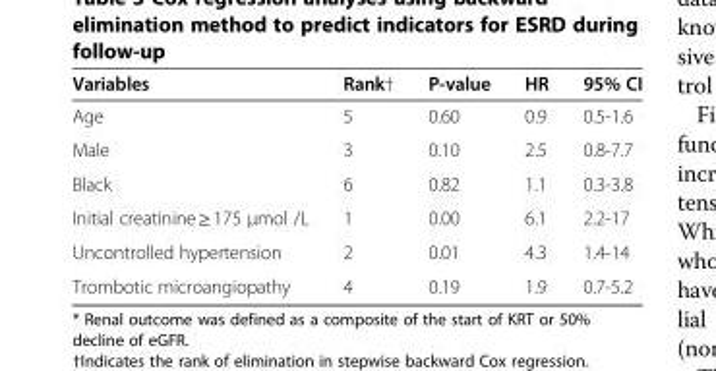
<table><thead><tr><td>Variables</td><td>Rank†</td><td>P-value</td><td>HR</td><td>95% CI</td></tr></thead><tbody><tr><td>Age</td><td>5</td><td>0.60</td><td>0.9</td><td>0.5-1.6</td></tr><tr><td>Male</td><td>3</td><td>0.10</td><td>2.5</td><td>0.8-7.7</td></tr><tr><td>Black</td><td>6</td><td>0.82</td><td>1.1</td><td>0.3-3.8</td></tr><tr><td>Initial creatinine ≥ 175 μmol /L</td><td>1</td><td>0.00</td><td>6.1</td><td>2.2-17</td></tr><tr><td>Uncontrolled hypertension</td><td>2</td><td>0.01</td><td>4.3</td><td>1.4-14</td></tr><tr><td>Trombotic microangiopathy</td><td>4</td><td>0.19</td><td>1.9</td><td>0.7-5.2</td></tr></tbody></table>